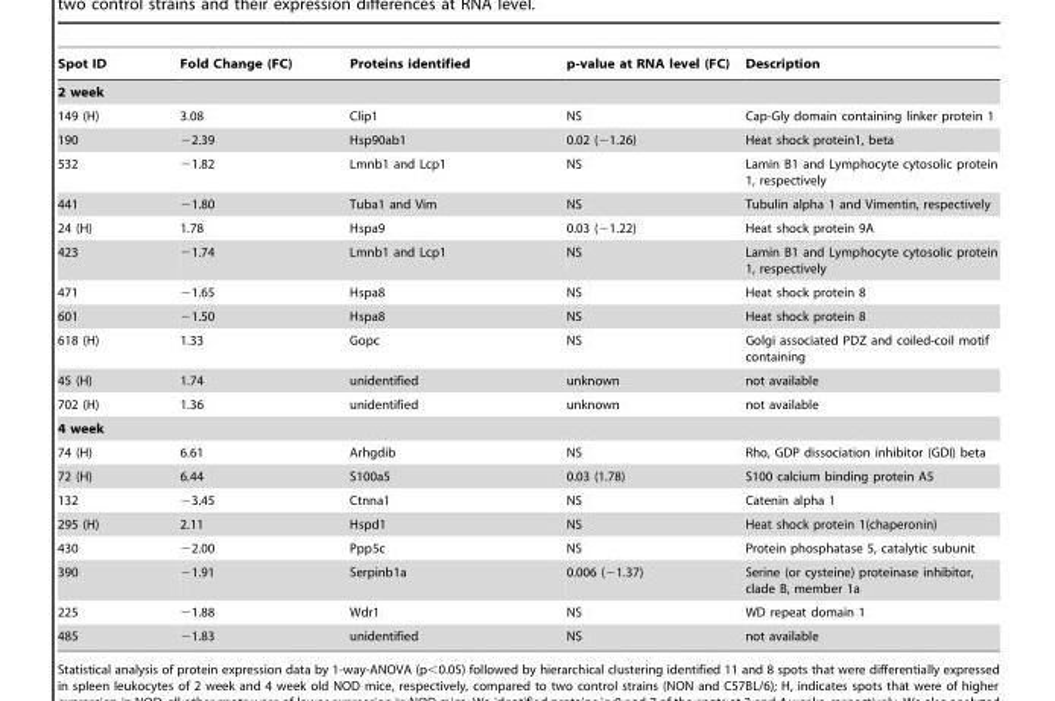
<table><thead><tr><td>Spot ID</td><td>Fold Change (FC)</td><td>Proteins identified</td><td>p-value at RNA level (FC)</td><td>Description</td></tr></thead><tbody><tr><td colspan="5">2 week</td></tr><tr><td>149 (H)</td><td>3.08</td><td>Clip1</td><td>NS</td><td>Cap-Gly domain containing linker protein 1</td></tr><tr><td>190</td><td>−2.39</td><td>Hsp90ab1</td><td>0.02 (−1.26)</td><td>Heat shock protein1, beta</td></tr><tr><td>532</td><td>−1.82</td><td>Lmnb1 and Lcp1</td><td>NS</td><td>Lamin B1 and Lymphocyte cytosolic protein 1, respectively</td></tr><tr><td>441</td><td>−1.80</td><td>Tuba1 and Vim</td><td>NS</td><td>Tubulin alpha 1 and Vimentin, respectively</td></tr><tr><td>24 (H)</td><td>1.78</td><td>Hspa9</td><td>0.03 (−1.22)</td><td>Heat shock protein 9A</td></tr><tr><td>423</td><td>−1.74</td><td>Lmnb1 and Lcp1</td><td>NS</td><td>Lamin B1 and Lymphocyte cytosolic protein 1, respectively</td></tr><tr><td>471</td><td>−1.65</td><td>Hspa8</td><td>NS</td><td>Heat shock protein 8</td></tr><tr><td>601</td><td>−1.50</td><td>Hspa8</td><td>NS</td><td>Heat shock protein 8</td></tr><tr><td>618 (H)</td><td>1.33</td><td>Gopc</td><td>NS</td><td>Golgi associated PDZ and coiled-coil motif containing</td></tr><tr><td>45 (H)</td><td>1.74</td><td>unidentified</td><td>unknown</td><td>not available</td></tr><tr><td>702 (H)</td><td>1.36</td><td>unidentified</td><td>unknown</td><td>not available</td></tr><tr><td colspan="5">4 week</td></tr><tr><td>74 (H)</td><td>6.61</td><td>Arhgdib</td><td>NS</td><td>Rho, GDP dissociation inhibitor (GDI) beta</td></tr><tr><td>72 (H)</td><td>6.44</td><td>S100a5</td><td>0.03 (1.78)</td><td>S100 calcium binding protein A5</td></tr><tr><td>132</td><td>−3.45</td><td>Ctnna1</td><td>NS</td><td>Catenin alpha 1</td></tr><tr><td>295 (H)</td><td>2.11</td><td>Hspd1</td><td>NS</td><td>Heat shock protein 1(chaperonin)</td></tr><tr><td>430</td><td>−2.00</td><td>Ppp5c</td><td>NS</td><td>Protein phosphatase 5, catalytic subunit</td></tr><tr><td>390</td><td>−1.91</td><td>Serpinb1a</td><td>0.006 (−1.37)</td><td>Serine (or cysteine) proteinase inhibitor, clade B, member 1a</td></tr><tr><td>225</td><td>−1.88</td><td>Wdr1</td><td>NS</td><td>WD repeat domain 1</td></tr><tr><td>485</td><td>−1.83</td><td>unidentified</td><td>NS</td><td>not available</td></tr></tbody></table>